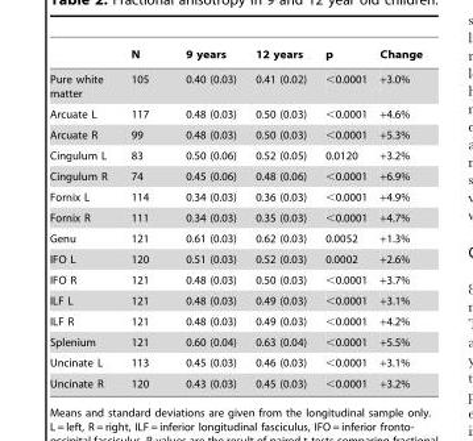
<table><thead><tr><td></td><td>N</td><td>9 years</td><td>12 years</td><td>p</td><td>Change</td></tr></thead><tbody><tr><td>Pure white matter</td><td>105</td><td>0.40 (0.03)</td><td>0.41 (0.02)</td><td>&lt;0.0001</td><td>+3.0%</td></tr><tr><td>Arcuate L</td><td>117</td><td>0.48 (0.03)</td><td>0.50 (0.03)</td><td>&lt;0.0001</td><td>+4.6%</td></tr><tr><td>Arcuate R</td><td>99</td><td>0.48 (0.03)</td><td>0.50 (0.03)</td><td>&lt;0.0001</td><td>+5.3%</td></tr><tr><td>Cingulum L</td><td>83</td><td>0.50 (0.06)</td><td>0.52 (0.05)</td><td>0.0120</td><td>+3.2%</td></tr><tr><td>Cingulum R</td><td>74</td><td>0.45 (0.06)</td><td>0.48 (0.06)</td><td>&lt;0.0001</td><td>+6.9%</td></tr><tr><td>Fornix L</td><td>114</td><td>0.34 (0.03)</td><td>0.36 (0.03)</td><td>&lt;0.0001</td><td>+4.9%</td></tr><tr><td>Fornix R</td><td>111</td><td>0.34 (0.03)</td><td>0.35 (0.03)</td><td>&lt;0.0001</td><td>+4.7%</td></tr><tr><td>Genu</td><td>121</td><td>0.61 (0.03)</td><td>0.62 (0.03)</td><td>0.0052</td><td>+1.3%</td></tr><tr><td>IFO L</td><td>120</td><td>0.51 (0.03)</td><td>0.52 (0.03)</td><td>0.0002</td><td>+2.6%</td></tr><tr><td>IFO R</td><td>121</td><td>0.48 (0.03)</td><td>0.50 (0.03)</td><td>&lt;0.0001</td><td>+3.7%</td></tr><tr><td>ILF L</td><td>121</td><td>0.48 (0.03)</td><td>0.49 (0.03)</td><td>&lt;0.0001</td><td>+3.1%</td></tr><tr><td>ILF R</td><td>121</td><td>0.48 (0.03)</td><td>0.49 (0.03)</td><td>&lt;0.0001</td><td>+4.2%</td></tr><tr><td>Splenium</td><td>121</td><td>0.60 (0.04)</td><td>0.63 (0.04)</td><td>&lt;0.0001</td><td>+5.5%</td></tr><tr><td>Uncinate L</td><td>113</td><td>0.45 (0.03)</td><td>0.46 (0.03)</td><td>&lt;0.0001</td><td>+3.1%</td></tr><tr><td>Uncinate R</td><td>120</td><td>0.43 (0.03)</td><td>0.45 (0.03)</td><td>&lt;0.0001</td><td>+3.2%</td></tr></tbody></table>